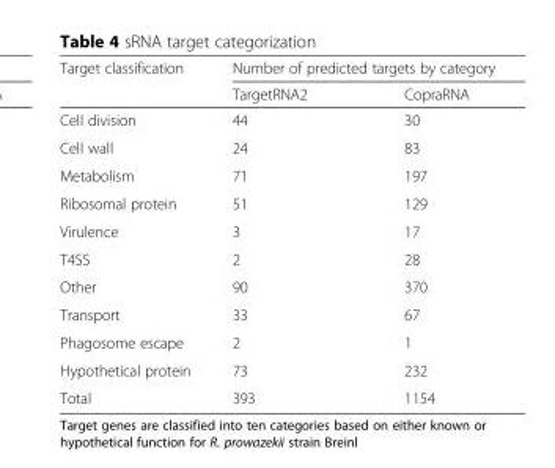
<table><thead><tr><td rowspan="2">Target classification</td><td colspan="2">Number of predicted targets by category</td></tr><tr><td>TargetRNA2</td><td>CopraRNA</td></tr></thead><tbody><tr><td>Cell division</td><td>44</td><td>30</td></tr><tr><td>Cell wall</td><td>24</td><td>83</td></tr><tr><td>Metabolism</td><td>71</td><td>197</td></tr><tr><td>Ribosomal protein</td><td>51</td><td>129</td></tr><tr><td>Virulence</td><td>3</td><td>17</td></tr><tr><td>T4SS</td><td>2</td><td>28</td></tr><tr><td>Other</td><td>90</td><td>370</td></tr><tr><td>Transport</td><td>33</td><td>67</td></tr><tr><td>Phagosome escape</td><td>2</td><td>1</td></tr><tr><td>Hypothetical protein</td><td>73</td><td>232</td></tr><tr><td>Total</td><td>393</td><td>1154</td></tr></tbody></table>